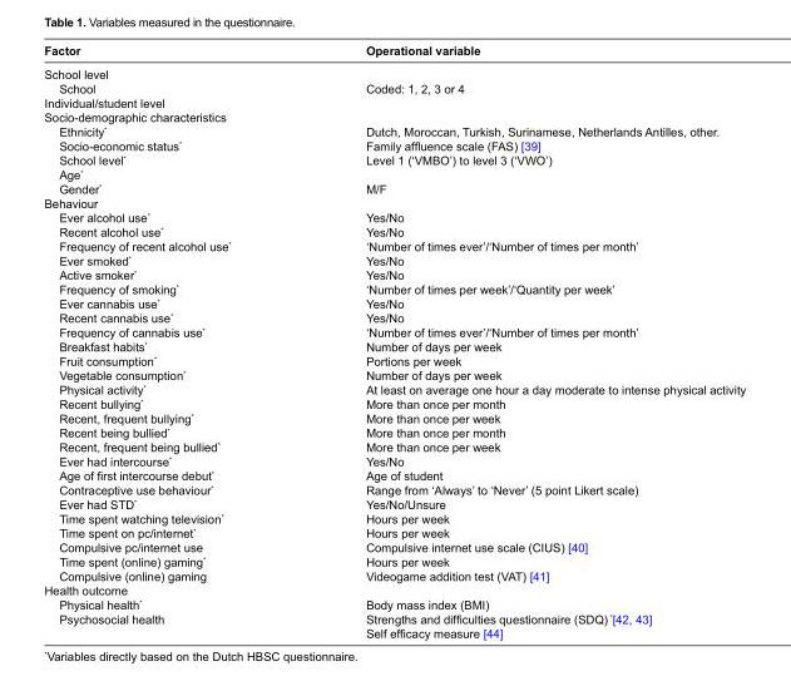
<table><thead><tr><td>Factor</td><td>Operational variable</td></tr></thead><tbody><tr><td colspan="2">School level</td></tr><tr><td>School</td><td>Coded: 1, 2, 3 or 4</td></tr><tr><td colspan="2">Individual/student level</td></tr><tr><td colspan="2">Socio-demographic characteristics</td></tr><tr><td>Ethnicity*</td><td>Dutch, Moroccan, Turkish, Surinamese, Netherlands Antilles, other.</td></tr><tr><td>Socio-economic status*</td><td>Family affluence scale (FAS) [39]</td></tr><tr><td>School level*</td><td>Level 1 (‘VMBO’) to level 3 (‘VWO’)</td></tr><tr><td colspan="2">Age*</td></tr><tr><td>Gender*</td><td>M/F</td></tr><tr><td colspan="2">Behaviour</td></tr><tr><td>Ever alcohol use*</td><td>Yes/No</td></tr><tr><td>Recent alcohol use*</td><td>Yes/No</td></tr><tr><td>Frequency of recent alcohol use*</td><td>‘Number of times ever’/‘Number of times per month’</td></tr><tr><td>Ever smoked*</td><td>Yes/No</td></tr><tr><td>Active smoker*</td><td>Yes/No</td></tr><tr><td>Frequency of smoking*</td><td>‘Number of times per week’/‘Quantity per week’</td></tr><tr><td>Ever cannabis use*</td><td>Yes/No</td></tr><tr><td>Recent cannabis use*</td><td>Yes/No</td></tr><tr><td>Frequency of cannabis use*</td><td>‘Number of times ever’/‘Number of times per month’</td></tr><tr><td>Breakfast habits*</td><td>Number of days per week</td></tr><tr><td>Fruit consumption*</td><td>Portions per week</td></tr><tr><td>Vegetable consumption*</td><td>Number of days per week</td></tr><tr><td>Physical activity*</td><td>At least on average one hour a day moderate to intense physical activity</td></tr><tr><td>Recent bullying*</td><td>More than once per month</td></tr><tr><td>Recent, frequent bullying*</td><td>More than once per week</td></tr><tr><td>Recent being bullied*</td><td>More than once per month</td></tr><tr><td>Recent, frequent being bullied*</td><td>More than once per week</td></tr><tr><td>Ever had intercourse*</td><td>Yes/No</td></tr><tr><td>Age of first intercourse debut*</td><td>Age of student</td></tr><tr><td>Contraceptive use behaviour*</td><td>Range from ‘Always’ to ‘Never’ (5 point Likert scale)</td></tr><tr><td>Ever had STD*</td><td>Yes/No/Unsure</td></tr><tr><td>Time spent watching television*</td><td>Hours per week</td></tr><tr><td>Time spent on pc/internet*</td><td>Hours per week</td></tr><tr><td>Compulsive pc/internet use</td><td>Compulsive internet use scale (CIUS) [40]</td></tr><tr><td>Time spent (online) gaming*</td><td>Hours per week</td></tr><tr><td>Compulsive (online) gaming</td><td>Videogame addition test (VAT) [41]</td></tr><tr><td colspan="2">Health outcome</td></tr><tr><td>Physical health*</td><td>Body mass index (BMI)</td></tr><tr><td rowspan="2">Psychosocial health</td><td>Strengths and difficulties questionnaire (SDQ) *[42, 43]</td></tr><tr><td>Self efficacy measure [44]</td></tr></tbody></table>